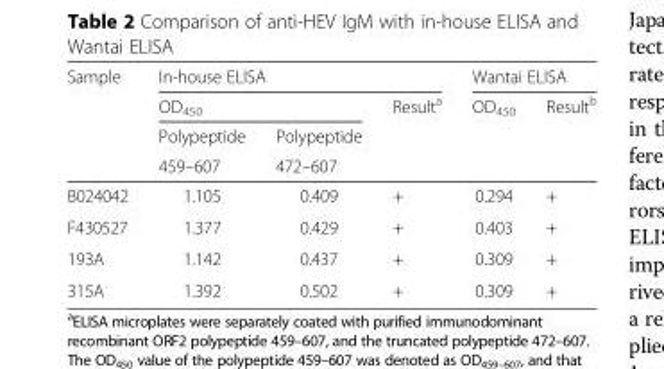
<table><thead><tr><td rowspan="4">Sample</td><td colspan="3">In-house ELISA</td><td colspan="2">Wantai ELISA</td></tr><tr><td colspan="2">OD<sub>450</sub></td><td rowspan="3">Result<sup>a</sup></td><td rowspan="3">OD<sub>450</sub></td><td rowspan="3">Result<sup>b</sup></td></tr><tr><td rowspan="2">Polypeptide 459–607</td><td rowspan="2">Polypeptide 472–607</td></tr><tr></tr></thead><tbody><tr><td>B024042</td><td>1.105</td><td>0.409</td><td>+</td><td>0.294</td><td>+</td></tr><tr><td>F430527</td><td>1.377</td><td>0.429</td><td>+</td><td>0.403</td><td>+</td></tr><tr><td>193A</td><td>1.142</td><td>0.437</td><td>+</td><td>0.309</td><td>+</td></tr><tr><td>315A</td><td>1.392</td><td>0.502</td><td>+</td><td>0.309</td><td>+</td></tr></tbody></table>